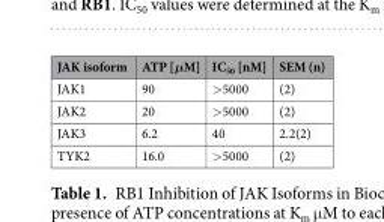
<table><thead><tr><td>JAK isoform</td><td>ATP [μM]</td><td>IC<sub>50</sub> [nM]</td><td>SEM (n)</td></tr></thead><tbody><tr><td>JAK1</td><td>90</td><td>&gt;5000</td><td>(2)</td></tr><tr><td>JAK2</td><td>20</td><td>&gt;5000</td><td>(2)</td></tr><tr><td>JAK3</td><td>6.2</td><td>40</td><td>2.2(2)</td></tr><tr><td>TYK2</td><td>16.0</td><td>&gt;5000</td><td>(2)</td></tr></tbody></table>